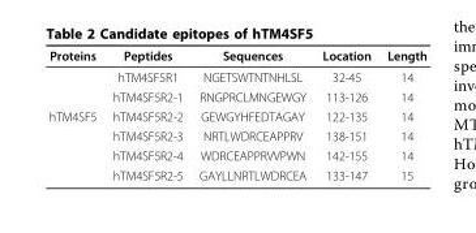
<table><thead><tr><td>Proteins</td><td>Peptides</td><td>Sequences</td><td>Location</td><td>Length</td></tr></thead><tbody><tr><td></td><td>hTM4SF5R1</td><td>NGETSWTNTNHLSL</td><td>32-45</td><td>14</td></tr><tr><td></td><td>hTM4SF5R2-1</td><td>RNGPRCLMNGEWGY</td><td>113-126</td><td>14</td></tr><tr><td rowspan="4">hTM4SF5</td><td>hTM4SF5R2-2</td><td>GEWGYHFEDTAGAY</td><td>122-135</td><td>14</td></tr><tr><td>hTM4SF5R2-3</td><td>NRTLWDRCEAPPRV</td><td>138-151</td><td>14</td></tr><tr><td>hTM4SF5R2-4</td><td>WDRCEAPPRVVPWN</td><td>142-155</td><td>14</td></tr><tr><td>hTM4SF5R2-5</td><td>GAYLLNRTLWDRCEA</td><td>133-147</td><td>15</td></tr></tbody></table>